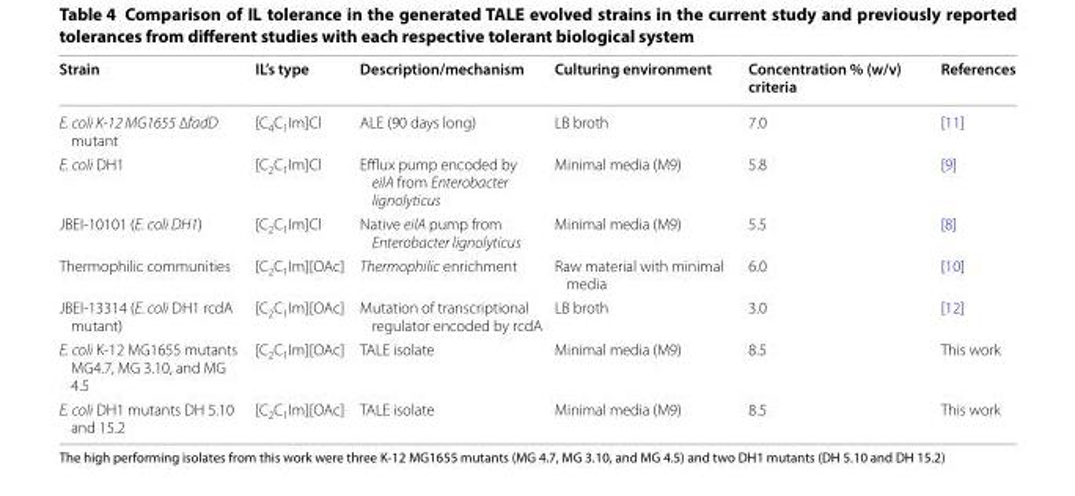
<table><thead><tr><td>Strain</td><td>IL’s type</td><td>Description/mechanism</td><td>Culturing environment</td><td>Concentration % (w/v) criteria</td><td>References</td></tr></thead><tbody><tr><td>E. coli K-12 MG1655 ∆fadD mutant</td><td>[C<sub>4</sub>C<sub>1</sub>Im]Cl</td><td>ALE (90 days long)</td><td>LB broth</td><td>7.0</td><td>[11]</td></tr><tr><td>E. coli DH1</td><td>[C<sub>2</sub>C<sub>1</sub>Im]Cl</td><td>Efflux pump encoded by eilA from Enterobacter lignolyticus</td><td>Minimal media (M9)</td><td>5.8</td><td>[9]</td></tr><tr><td>JBEI-10101 (E. coli DH1)</td><td>[C<sub>2</sub>C<sub>1</sub>Im]Cl</td><td>Native eilA pump from Enterobacter lignolyticus</td><td>Minimal media (M9)</td><td>5.5</td><td>[8]</td></tr><tr><td>Thermophilic communities</td><td>[C<sub>2</sub>C<sub>1</sub>Im][OAc]</td><td>Thermophilic enrichment</td><td>Raw material with minimal media</td><td>6.0</td><td>[10]</td></tr><tr><td>JBEI-13314 (E. coli DH1 rcdA mutant)</td><td>[C<sub>2</sub>C<sub>1</sub>Im][OAc]</td><td>Mutation of transcriptional regulator encoded by rcdA</td><td>LB broth</td><td>3.0</td><td>[12]</td></tr><tr><td>E. coli K-12 MG1655 mutants MG4.7, MG 3.10, and MG 4.5</td><td>[C<sub>2</sub>C<sub>1</sub>Im][OAc]</td><td>TALE isolate</td><td>Minimal media (M9)</td><td>8.5</td><td>This work</td></tr><tr><td>E. coli DH1 mutants DH 5.10 and 15.2</td><td>[C<sub>2</sub>C<sub>1</sub>Im][OAc]</td><td>TALE isolate</td><td>Minimal media (M9)</td><td>8.5</td><td>This work</td></tr></tbody></table>